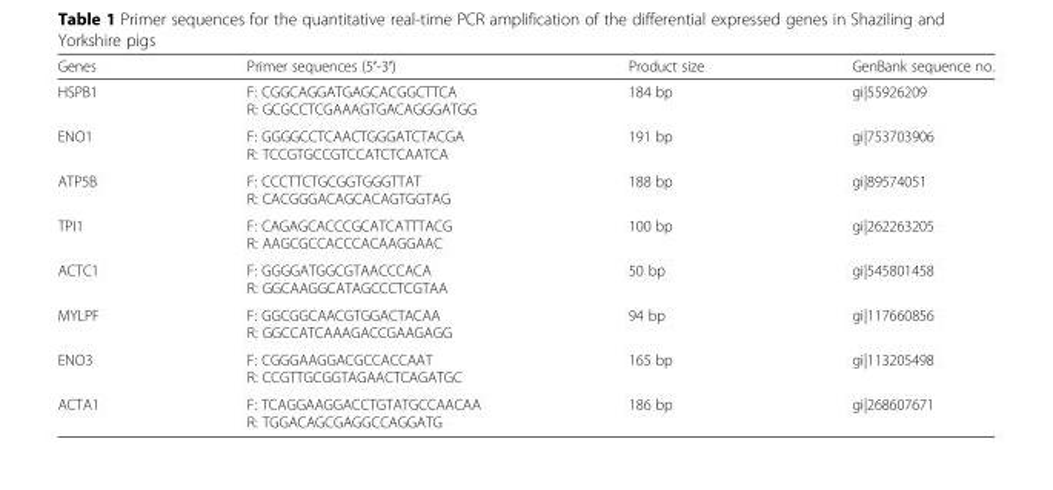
<table><thead><tr><td>Genes</td><td>Primer sequences (5′-3′)</td><td>Product size</td><td>GenBank sequence no.</td></tr></thead><tbody><tr><td>HSPB1</td><td>F: CGGCAGGATGAGCACGGCTTCA R: GCGCCTCGAAAGTGACAGGGATGG</td><td>184 bp</td><td>gi|55926209</td></tr><tr><td>ENO1</td><td>F: GGGGCCTCAACTGGGATCTACGA R: TCCGTGCCGTCCATCTCAATCA</td><td>191 bp</td><td>gi|753703906</td></tr><tr><td>ATP5B</td><td>F: CCCTTCTGCGGTGGGTTAT R: CACGGGACAGCACAGTGGTAG</td><td>188 bp</td><td>gi|89574051</td></tr><tr><td>TPI1</td><td>F: CAGAGCACCCGCATCATTTACG R: AAGCGCCACCCACAAGGAAC</td><td>100 bp</td><td>gi|262263205</td></tr><tr><td>ACTC1</td><td>F: GGGGATGGCGTAACCCACA R: GGCAAGGCATAGCCCTCGTAA</td><td>50 bp</td><td>gi|545801458</td></tr><tr><td>MYLPF</td><td>F: GGCGGCAACGTGGACTACAA R: GGCCATCAAAGACCGAAGAGG</td><td>94 bp</td><td>gi|117660856</td></tr><tr><td>ENO3</td><td>F: CGGGAAGGACGCCACCAAT R: CCGTTGCGGTAGAACTCAGATGC</td><td>165 bp</td><td>gi|113205498</td></tr><tr><td>ACTA1</td><td>F: TCAGGAAGGACCTGTATGCCAACAA R: TGGACAGCGAGGCCAGGATG</td><td>186 bp</td><td>gi|268607671</td></tr></tbody></table>